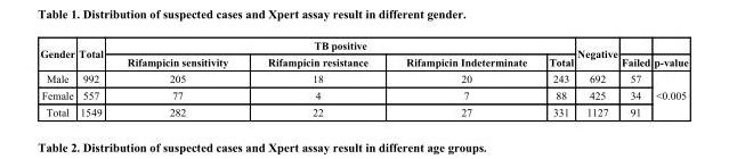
<table><thead><tr><td rowspan="2">Gender</td><td rowspan="2">Total</td><td colspan="4">TB positive</td><td rowspan="2">Negative</td><td rowspan="2">Failed</td><td rowspan="2">p-value</td></tr><tr><td>Rifampicin sensitivity</td><td>Rifampicin resistance</td><td>Rifampicin Indeterminate</td><td>Total</td></tr></thead><tbody><tr><td>Male</td><td>992</td><td>205</td><td>18</td><td>20</td><td>243</td><td>692</td><td>57</td><td rowspan="3">&lt;0.005</td></tr><tr><td>Female</td><td>557</td><td>77</td><td>4</td><td>7</td><td>88</td><td>425</td><td>34</td></tr><tr><td>Total</td><td>1549</td><td>282</td><td>22</td><td>27</td><td>331</td><td>1127</td><td>91</td></tr></tbody></table>